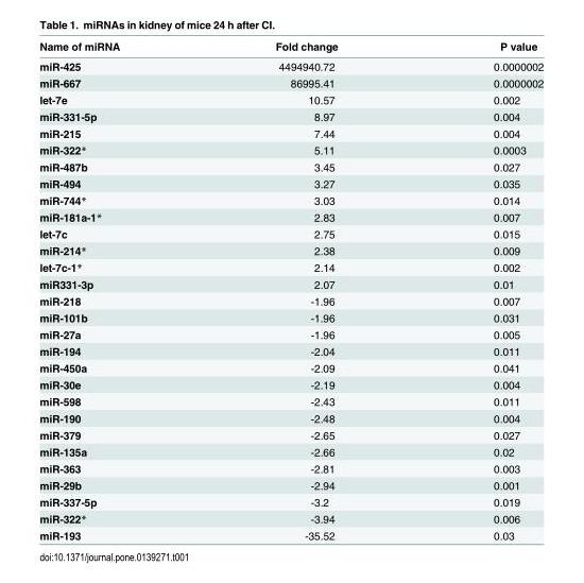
<table><thead><tr><td>Name of miRNA</td><td>Fold change</td><td>P value</td></tr></thead><tbody><tr><td>miR-425</td><td>4494940.72</td><td>0.0000002</td></tr><tr><td>miR-667</td><td>86995.41</td><td>0.0000002</td></tr><tr><td>let-7e</td><td>10.57</td><td>0.002</td></tr><tr><td>miR-331-5p</td><td>8.97</td><td>0.004</td></tr><tr><td>miR-215</td><td>7.44</td><td>0.004</td></tr><tr><td>miR-322*</td><td>5.11</td><td>0.0003</td></tr><tr><td>miR-487b</td><td>3.45</td><td>0.027</td></tr><tr><td>miR-494</td><td>3.27</td><td>0.035</td></tr><tr><td>miR-744*</td><td>3.03</td><td>0.014</td></tr><tr><td>miR-181a-1*</td><td>2.83</td><td>0.007</td></tr><tr><td>let-7c</td><td>2.75</td><td>0.015</td></tr><tr><td>miR-214*</td><td>2.38</td><td>0.009</td></tr><tr><td>let-7c-1*</td><td>2.14</td><td>0.002</td></tr><tr><td>miR331-3p</td><td>2.07</td><td>0.01</td></tr><tr><td>miR-218</td><td>-1.96</td><td>0.007</td></tr><tr><td>miR-101b</td><td>-1.96</td><td>0.031</td></tr><tr><td>miR-27a</td><td>-1.96</td><td>0.005</td></tr><tr><td>miR-194</td><td>-2.04</td><td>0.011</td></tr><tr><td>miR-450a</td><td>-2.09</td><td>0.041</td></tr><tr><td>miR-30e</td><td>-2.19</td><td>0.004</td></tr><tr><td>miR-598</td><td>-2.43</td><td>0.011</td></tr><tr><td>miR-190</td><td>-2.48</td><td>0.004</td></tr><tr><td>miR-379</td><td>-2.65</td><td>0.027</td></tr><tr><td>miR-135a</td><td>-2.66</td><td>0.02</td></tr><tr><td>miR-363</td><td>-2.81</td><td>0.003</td></tr><tr><td>miR-29b</td><td>-2.94</td><td>0.001</td></tr><tr><td>miR-337-5p</td><td>-3.2</td><td>0.019</td></tr><tr><td>miR-322*</td><td>-3.94</td><td>0.006</td></tr><tr><td>miR-193</td><td>-35.52</td><td>0.03</td></tr></tbody></table>